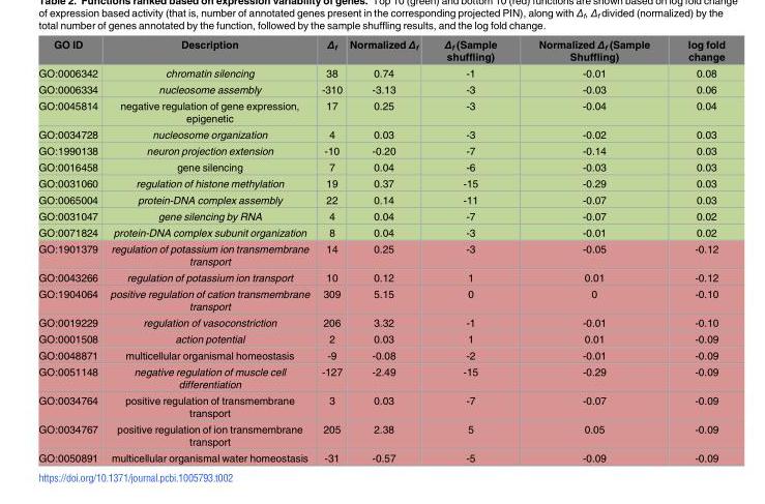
<table><thead><tr><td>GO ID</td><td>Description</td><td>Δ<sub>f</sub></td><td>Normalized Δ<sub>f</sub></td><td>Δ<sub>f</sub> (Sample shuffling)</td><td>Normalized Δ<sub>f</sub> (Sample Shuffling)</td><td>log fold change</td></tr></thead><tbody><tr><td>GO:0006342</td><td>chromatin silencing</td><td>38</td><td>0.74</td><td>-1</td><td>-0.01</td><td>0.08</td></tr><tr><td>GO:0006334</td><td>nucleosome assembly</td><td>-310</td><td>-3.13</td><td>-3</td><td>-0.03</td><td>0.06</td></tr><tr><td>GO:0045814</td><td>negative regulation of gene expression, epigenetic</td><td>17</td><td>0.25</td><td>-3</td><td>-0.04</td><td>0.04</td></tr><tr><td>GO:0034728</td><td>nucleosome organization</td><td>4</td><td>0.03</td><td>-3</td><td>-0.02</td><td>0.03</td></tr><tr><td>GO:1990138</td><td>neuron projection extension</td><td>-10</td><td>-0.20</td><td>-7</td><td>-0.14</td><td>0.03</td></tr><tr><td>GO:0016458</td><td>gene silencing</td><td>7</td><td>0.04</td><td>-6</td><td>-0.03</td><td>0.03</td></tr><tr><td>GO:0031060</td><td>regulation of histone methylation</td><td>19</td><td>0.37</td><td>-15</td><td>-0.29</td><td>0.03</td></tr><tr><td>GO:0065004</td><td>protein-DNA complex assembly</td><td>22</td><td>0.14</td><td>-11</td><td>-0.07</td><td>0.03</td></tr><tr><td>GO:0031047</td><td>gene silencing by RNA</td><td>4</td><td>0.04</td><td>-7</td><td>-0.07</td><td>0.02</td></tr><tr><td>GO:0071824</td><td>protein-DNA complex subunit organization</td><td>8</td><td>0.04</td><td>-3</td><td>-0.01</td><td>0.02</td></tr><tr><td>GO:1901379</td><td>regulation of potassium ion transmembrane transport</td><td>14</td><td>0.25</td><td>-3</td><td>-0.05</td><td>-0.12</td></tr><tr><td>GO:0043266</td><td>regulation of potassium ion transport</td><td>10</td><td>0.12</td><td>1</td><td>0.01</td><td>-0.12</td></tr><tr><td>GO:1904064</td><td>positive regulation of cation transmembrane transport</td><td>309</td><td>5.15</td><td>0</td><td>0</td><td>-0.10</td></tr><tr><td>GO:0019229</td><td>regulation of vasoconstriction</td><td>206</td><td>3.32</td><td>-1</td><td>-0.01</td><td>-0.10</td></tr><tr><td>GO:0001508</td><td>action potential</td><td>2</td><td>0.03</td><td>1</td><td>0.01</td><td>-0.09</td></tr><tr><td>GO:0048871</td><td>multicellular organismal homeostasis</td><td>-9</td><td>-0.08</td><td>-2</td><td>-0.01</td><td>-0.09</td></tr><tr><td>GO:0051148</td><td>negative regulation of muscle cell differentiation</td><td>-127</td><td>-2.49</td><td>-15</td><td>-0.29</td><td>-0.09</td></tr><tr><td>GO:0034764</td><td>positive regulation of transmembrane transport</td><td>3</td><td>0.03</td><td>-7</td><td>-0.07</td><td>-0.09</td></tr><tr><td>GO:0034767</td><td>positive regulation of ion transmembrane transport</td><td>205</td><td>2.38</td><td>5</td><td>0.05</td><td>-0.09</td></tr><tr><td>GO:0050891</td><td>multicellular organismal water homeostasis</td><td>-31</td><td>-0.57</td><td>-5</td><td>-0.09</td><td>-0.09</td></tr></tbody></table>